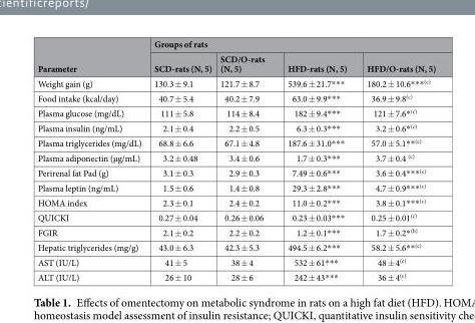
<table><thead><tr><td rowspan="2">Parameter</td><td colspan="4">Groups of rats</td></tr><tr><td>SCD-rats (N, 5)</td><td>SCD/O-rats (N, 5)</td><td>HFD-rats (N, 5)</td><td>HFD/O-rats (N, 5)</td></tr></thead><tbody><tr><td>Weight gain (g)</td><td>130.3 ± 9.1</td><td>121.7 ± 8.7</td><td>539.6 ± 21.7***</td><td>180.2 ± 10.6***<sup>(c)</sup></td></tr><tr><td>Food intake (kcal/day)</td><td>40.7 ± 5.4</td><td>40.2 ± 7.9</td><td>63.0 ± 9.9***</td><td>36.9 ± 9.8<sup>(c)</sup></td></tr><tr><td>Plasma glucose (mg/dL)</td><td>111 ± 5.8</td><td>114 ± 8.4</td><td>182 ± 9.4***</td><td>121 ± 7.6*<sup>(c)</sup></td></tr><tr><td>Plasma insulin (ng/mL)</td><td>2.1 ± 0.4</td><td>2.2 ± 0.5</td><td>6.3 ± 0.3***</td><td>3.2 ± 0.6*<sup>(c)</sup></td></tr><tr><td>Plasma triglycerides (mg/dL)</td><td>68.8 ± 6.6</td><td>67.1 ± 4.8</td><td>187.6 ± 31.0***</td><td>57.0 ± 5.1**<sup>(c)</sup></td></tr><tr><td>Plasma adiponectin (µg/mL)</td><td>3.2 ± 0.48</td><td>3.4 ± 0.6</td><td>1.7 ± 0.3***</td><td>3.7 ± 0.4 <sup>(c)</sup></td></tr><tr><td>Perirenal fat Pad (g)</td><td>3.1 ± 0.3</td><td>2.9 ± 0.3</td><td>7.49 ± 0.6***</td><td>3.6 ± 0.4***<sup>(c)</sup></td></tr><tr><td>Plasma leptin (ng/mL)</td><td>1.5 ± 0.6</td><td>1.4 ± 0.8</td><td>29.3 ± 2.8***</td><td>4.7 ± 0.9***<sup>(c)</sup></td></tr><tr><td>HOMA index</td><td>2.3 ± 0.1</td><td>2.4 ± 0.2</td><td>11.0 ± 0.2***</td><td>3.8 ± 0.1***<sup>(c)</sup></td></tr><tr><td>QUICKI</td><td>0.27 ± 0.04</td><td>0.26 ± 0.06</td><td>0.23 ± 0.03***</td><td>0.25 ± 0.01<sup>(c)</sup></td></tr><tr><td>FGIR</td><td>2.1 ± 0.2</td><td>2.2 ± 0.2</td><td>1.2 ± 0.1***</td><td>1.7 ± 0.2*<sup>(b)</sup></td></tr><tr><td>Hepatic triglycerides (mg/g)</td><td>43.0 ± 6.3</td><td>42.3 ± 5.3</td><td>494.5 ± 6.2***</td><td>58.2 ± 5.6**<sup>(c)</sup></td></tr><tr><td>AST (IU/L)</td><td>41 ± 5</td><td>38 ± 4</td><td>532 ± 61***</td><td>48 ± 4<sup>(c)</sup></td></tr><tr><td>ALT (IU/L)</td><td>26 ± 10</td><td>28 ± 6</td><td>242 ± 43***</td><td>36 ± 4<sup>(c)</sup></td></tr></tbody></table>